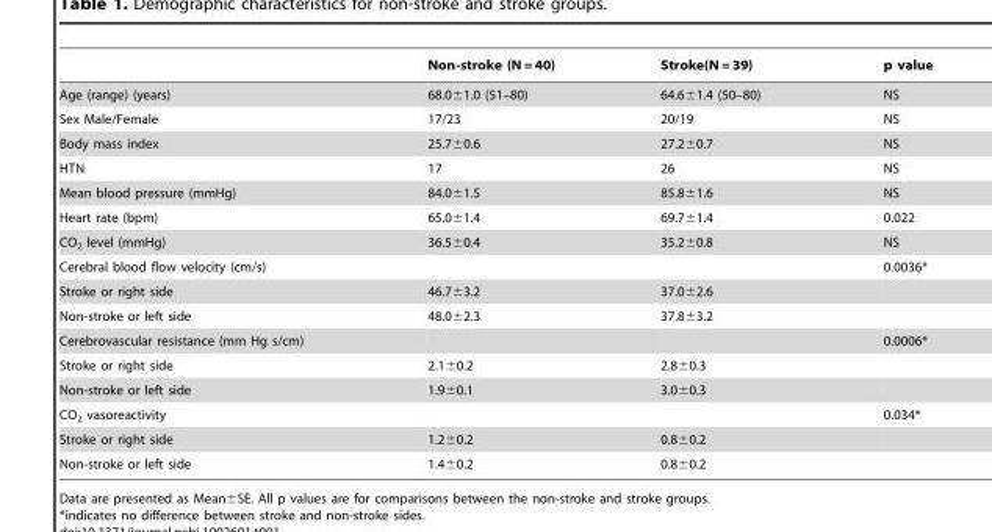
<table><thead><tr><td></td><td>Non-stroke (N = 40)</td><td>Stroke(N = 39)</td><td>p value</td></tr></thead><tbody><tr><td>Age (range) (years)</td><td>68.0±1.0 (51–80)</td><td>64.6±1.4 (50–80)</td><td>NS</td></tr><tr><td>Sex Male/Female</td><td>17/23</td><td>20/19</td><td>NS</td></tr><tr><td>Body mass index</td><td>25.7±0.6</td><td>27.2±0.7</td><td>NS</td></tr><tr><td>HTN</td><td>17</td><td>26</td><td>NS</td></tr><tr><td>Mean blood pressure (mmHg)</td><td>84.0±1.5</td><td>85.8±1.6</td><td>NS</td></tr><tr><td>Heart rate (bpm)</td><td>65.0±1.4</td><td>69.7±1.4</td><td>0.022</td></tr><tr><td>CO<sub>2</sub> level (mmHg)</td><td>36.5±0.4</td><td>35.2±0.8</td><td>NS</td></tr><tr><td>Cerebral blood flow velocity (cm/s)</td><td></td><td></td><td>0.0036*</td></tr><tr><td>Stroke or right side</td><td>46.7±3.2</td><td>37.0±2.6</td><td></td></tr><tr><td>Non-stroke or left side</td><td>48.0±2.3</td><td>37.8±3.2</td><td></td></tr><tr><td>Cerebrovascular resistance (mm Hg s/cm)</td><td></td><td></td><td>0.0006*</td></tr><tr><td>Stroke or right side</td><td>2.1±0.2</td><td>2.8±0.3</td><td></td></tr><tr><td>Non-stroke or left side</td><td>1.9±0.1</td><td>3.0±0.3</td><td></td></tr><tr><td>CO<sub>2</sub> vasoreactivity</td><td></td><td></td><td>0.034*</td></tr><tr><td>Stroke or right side</td><td>1.2±0.2</td><td>0.8±0.2</td><td></td></tr><tr><td>Non-stroke or left side</td><td>1.4±0.2</td><td>0.8±0.2</td><td></td></tr></tbody></table>